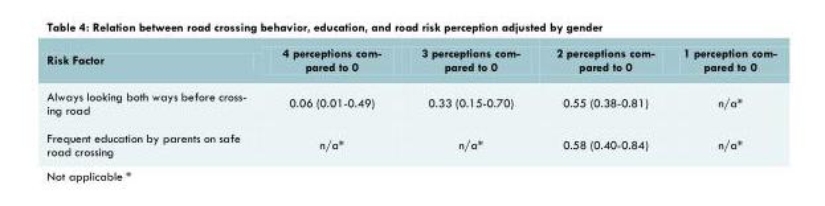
<table><thead><tr><td>Risk Factor</td><td>4 perceptions com- pared to 0</td><td>3 perceptions com- pared to 0</td><td>2 perceptions com- pared to 0</td><td>1 perception com- pared to 0</td></tr></thead><tbody><tr><td>Always looking both ways before cross- ing road</td><td>0.06 (0.01-0.49)</td><td>0.33 (0.15-0.70)</td><td>0.55 (0.38-0.81)</td><td>n/a*</td></tr><tr><td>Frequent education by parents on safe road crossing</td><td>n/a*</td><td>n/a*</td><td>0.58 (0.40-0.84)</td><td>n/a*</td></tr></tbody></table>